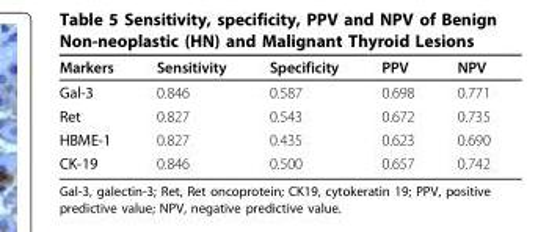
<table><thead><tr><td>Markers</td><td>Sensitivity</td><td>Specificity</td><td>PPV</td><td>NPV</td></tr></thead><tbody><tr><td>Gal-3</td><td>0.846</td><td>0.587</td><td>0.698</td><td>0.771</td></tr><tr><td>Ret</td><td>0.827</td><td>0.543</td><td>0.672</td><td>0.735</td></tr><tr><td>HBME-1</td><td>0.827</td><td>0.435</td><td>0.623</td><td>0.690</td></tr><tr><td>CK-19</td><td>0.846</td><td>0.500</td><td>0.657</td><td>0.742</td></tr></tbody></table>